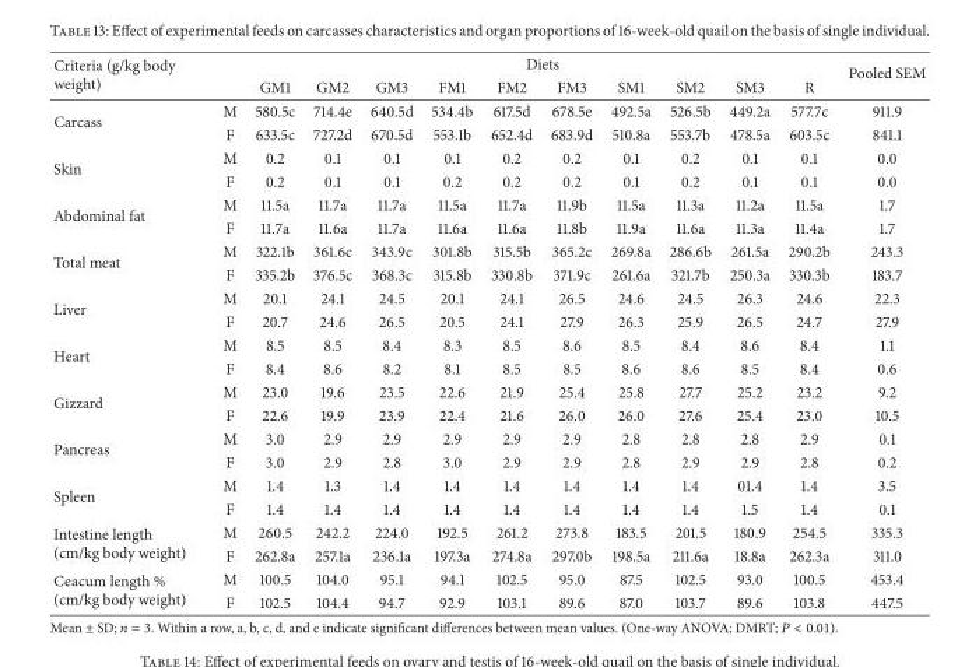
<table><thead><tr><td rowspan="2">Criteria (g/kg body weight)</td><td rowspan="2"></td><td colspan="10">Diets</td><td rowspan="2">Pooled SEM</td></tr><tr><td>GM1</td><td>GM2</td><td>GM3</td><td>FM1</td><td>FM2</td><td>FM3</td><td>SM1</td><td>SM2</td><td>SM3</td><td>R</td></tr></thead><tbody><tr><td rowspan="2">Carcass</td><td>M</td><td>580.5c</td><td>714.4e</td><td>640.5d</td><td>534.4b</td><td>617.5d</td><td>678.5e</td><td>492.5a</td><td>526.5b</td><td>449.2a</td><td>577.7c</td><td>911.9</td></tr><tr><td>F</td><td>633.5c</td><td>727.2d</td><td>670.5d</td><td>553.1b</td><td>652.4d</td><td>683.9d</td><td>510.8a</td><td>553.7b</td><td>478.5a</td><td>603.5c</td><td>841.1</td></tr><tr><td rowspan="2">Skin</td><td>M</td><td>0.2</td><td>0.1</td><td>0.1</td><td>0.1</td><td>0.2</td><td>0.2</td><td>0.1</td><td>0.2</td><td>0.1</td><td>0.1</td><td>0.0</td></tr><tr><td>F</td><td>0.2</td><td>0.1</td><td>0.1</td><td>0.2</td><td>0.2</td><td>0.2</td><td>0.1</td><td>0.2</td><td>0.1</td><td>0.1</td><td>0.0</td></tr><tr><td rowspan="2">Abdominal fat</td><td>M</td><td>11.5a</td><td>11.7a</td><td>11.7a</td><td>11.5a</td><td>11.7a</td><td>11.9b</td><td>11.5a</td><td>11.3a</td><td>11.2a</td><td>11.5a</td><td>1.7</td></tr><tr><td>F</td><td>11.7a</td><td>11.6a</td><td>11.7a</td><td>11.6a</td><td>11.6a</td><td>11.8b</td><td>11.9a</td><td>11.6a</td><td>11.3a</td><td>11.4a</td><td>1.7</td></tr><tr><td rowspan="2">Total meat</td><td>M</td><td>322.1b</td><td>361.6c</td><td>343.9c</td><td>301.8b</td><td>315.5b</td><td>365.2c</td><td>269.8a</td><td>286.6b</td><td>261.5a</td><td>290.2b</td><td>243.3</td></tr><tr><td>F</td><td>335.2b</td><td>376.5c</td><td>368.3c</td><td>315.8b</td><td>330.8b</td><td>371.9c</td><td>261.6a</td><td>321.7b</td><td>250.3a</td><td>330.3b</td><td>183.7</td></tr><tr><td rowspan="2">Liver</td><td>M</td><td>20.1</td><td>24.1</td><td>24.5</td><td>20.1</td><td>24.1</td><td>26.5</td><td>24.6</td><td>24.5</td><td>26.3</td><td>24.6</td><td>22.3</td></tr><tr><td>F</td><td>20.7</td><td>24.6</td><td>26.5</td><td>20.5</td><td>24.1</td><td>27.9</td><td>26.3</td><td>25.9</td><td>26.5</td><td>24.7</td><td>27.9</td></tr><tr><td rowspan="2">Heart</td><td>M</td><td>8.5</td><td>8.5</td><td>8.4</td><td>8.3</td><td>8.5</td><td>8.6</td><td>8.5</td><td>8.4</td><td>8.6</td><td>8.4</td><td>1.1</td></tr><tr><td>F</td><td>8.4</td><td>8.6</td><td>8.2</td><td>8.1</td><td>8.5</td><td>8.5</td><td>8.6</td><td>8.6</td><td>8.5</td><td>8.4</td><td>0.6</td></tr><tr><td rowspan="2">Gizzard</td><td>M</td><td>23.0</td><td>19.6</td><td>23.5</td><td>22.6</td><td>21.9</td><td>25.4</td><td>25.8</td><td>27.7</td><td>25.2</td><td>23.2</td><td>9.2</td></tr><tr><td>F</td><td>22.6</td><td>19.9</td><td>23.9</td><td>22.4</td><td>21.6</td><td>26.0</td><td>26.0</td><td>27.6</td><td>25.4</td><td>23.0</td><td>10.5</td></tr><tr><td rowspan="2">Pancreas</td><td>M</td><td>3.0</td><td>2.9</td><td>2.9</td><td>2.9</td><td>2.9</td><td>2.9</td><td>2.8</td><td>2.8</td><td>2.8</td><td>2.9</td><td>0.1</td></tr><tr><td>F</td><td>3.0</td><td>2.9</td><td>2.8</td><td>3.0</td><td>2.9</td><td>2.9</td><td>2.8</td><td>2.9</td><td>2.9</td><td>2.8</td><td>0.2</td></tr><tr><td rowspan="2">Spleen</td><td>M</td><td>1.4</td><td>1.3</td><td>1.4</td><td>1.4</td><td>1.4</td><td>1.4</td><td>1.4</td><td>1.4</td><td>01.4</td><td>1.4</td><td>3.5</td></tr><tr><td>F</td><td>1.4</td><td>1.4</td><td>1.4</td><td>1.4</td><td>1.4</td><td>1.4</td><td>1.4</td><td>1.4</td><td>1.5</td><td>1.4</td><td>0.1</td></tr><tr><td rowspan="2">Intestine length (cm/kg body weight)</td><td>M</td><td>260.5</td><td>242.2</td><td>224.0</td><td>192.5</td><td>261.2</td><td>273.8</td><td>183.5</td><td>201.5</td><td>180.9</td><td>254.5</td><td>335.3</td></tr><tr><td>F</td><td>262.8a</td><td>257.1a</td><td>236.1a</td><td>197.3a</td><td>274.8a</td><td>297.0b</td><td>198.5a</td><td>211.6a</td><td>18.8a</td><td>262.3a</td><td>311.0</td></tr><tr><td rowspan="2">Ceacum length % (cm/kg body weight)</td><td>M</td><td>100.5</td><td>104.0</td><td>95.1</td><td>94.1</td><td>102.5</td><td>95.0</td><td>87.5</td><td>102.5</td><td>93.0</td><td>100.5</td><td>453.4</td></tr><tr><td>F</td><td>102.5</td><td>104.4</td><td>94.7</td><td>92.9</td><td>103.1</td><td>89.6</td><td>87.0</td><td>103.7</td><td>89.6</td><td>103.8</td><td>447.5</td></tr></tbody></table>